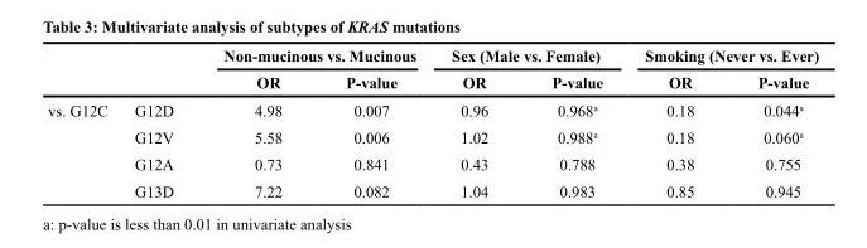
<table><thead><tr><td rowspan="2"></td><td rowspan="2"></td><td colspan="2">Non-mucinous vs. Mucinous</td><td colspan="2">Sex (Male vs. Female)</td><td colspan="2">Smoking (Never vs. Ever)</td></tr><tr><td>OR</td><td>P-value</td><td>OR</td><td>P-value</td><td>OR</td><td>P-value</td></tr></thead><tbody><tr><td rowspan="4">vs. G12C</td><td>G12D</td><td>4.98</td><td>0.007</td><td>0.96</td><td>0.968<sup>a</sup></td><td>0.18</td><td>0.044<sup>a</sup></td></tr><tr><td>G12V</td><td>5.58</td><td>0.006</td><td>1.02</td><td>0.988<sup>a</sup></td><td>0.18</td><td>0.060<sup>a</sup></td></tr><tr><td>G12A</td><td>0.73</td><td>0.841</td><td>0.43</td><td>0.788</td><td>0.38</td><td>0.755</td></tr><tr><td>G13D</td><td>7.22</td><td>0.082</td><td>1.04</td><td>0.983</td><td>0.85</td><td>0.945</td></tr></tbody></table>